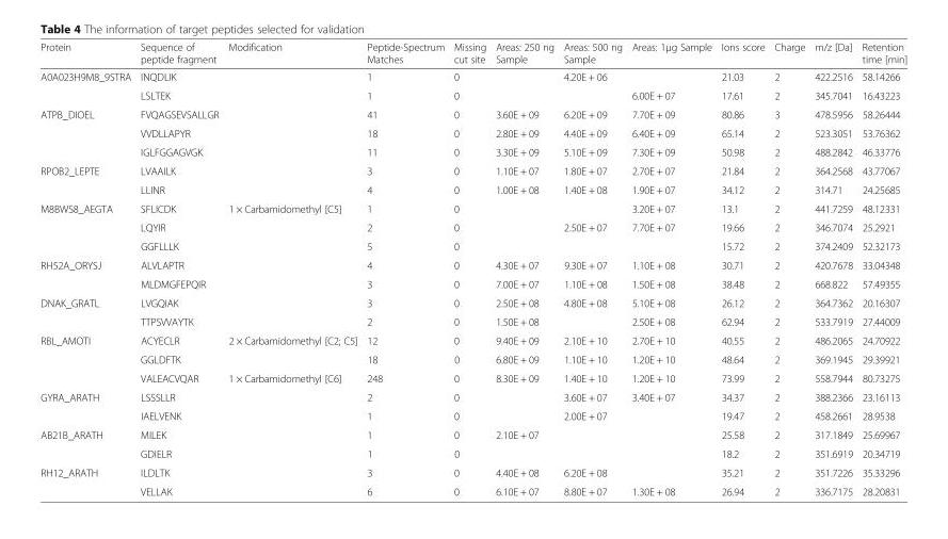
<table><thead><tr><td>Protein</td><td>Sequence of peptide fragment</td><td>Modification</td><td>Peptide-Spectrum Matches</td><td>Missing cut site</td><td>Areas: 250 ng Sample</td><td>Areas: 500 ng Sample</td><td>Areas: 1μg Sample</td><td>Ions score</td><td>Charge</td><td>m/z [Da]</td><td>Retention time [min]</td></tr></thead><tbody><tr><td rowspan="2">A0A023H9M8_9STRA</td><td>INQDLIK</td><td></td><td>1</td><td>0</td><td></td><td>4.20E + 06</td><td></td><td>21.03</td><td>2</td><td>422.2516</td><td>58.14266</td></tr><tr><td>LSLTEK</td><td></td><td>1</td><td>0</td><td></td><td></td><td>6.00E + 07</td><td>17.61</td><td>2</td><td>345.7041</td><td>16.43223</td></tr><tr><td rowspan="3">ATPB_DIOEL</td><td>FVQAGSEVSALLGR</td><td></td><td>41</td><td>0</td><td>3.60E + 09</td><td>6.20E + 09</td><td>7.70E + 09</td><td>80.86</td><td>3</td><td>478.5956</td><td>58.26444</td></tr><tr><td>VVDLLAPYR</td><td></td><td>18</td><td>0</td><td>2.80E + 09</td><td>4.40E + 09</td><td>6.40E + 09</td><td>65.14</td><td>2</td><td>523.3051</td><td>53.76362</td></tr><tr><td>IGLFGGAGVGK</td><td></td><td>11</td><td>0</td><td>3.30E + 09</td><td>5.10E + 09</td><td>7.30E + 09</td><td>50.98</td><td>2</td><td>488.2842</td><td>46.33776</td></tr><tr><td rowspan="2">RPOB2_LEPTE</td><td>LVAAILK</td><td></td><td>3</td><td>0</td><td>1.10E + 07</td><td>1.80E + 07</td><td>2.70E + 07</td><td>21.84</td><td>2</td><td>364.2568</td><td>43.77067</td></tr><tr><td>LLINR</td><td></td><td>4</td><td>0</td><td>1.00E + 08</td><td>1.40E + 08</td><td>1.90E + 07</td><td>34.12</td><td>2</td><td>314.71</td><td>24.25685</td></tr><tr><td rowspan="3">M8BWS8_AEGTA</td><td>SFLICDK</td><td>1 × Carbamidomethyl [C5]</td><td>1</td><td>0</td><td></td><td></td><td>3.20E + 07</td><td>13.1</td><td>2</td><td>441.7259</td><td>48.12331</td></tr><tr><td>LQYIR</td><td></td><td>2</td><td>0</td><td></td><td>2.50E + 07</td><td>7.70E + 07</td><td>19.66</td><td>2</td><td>346.7074</td><td>25.2921</td></tr><tr><td>GGFLLLK</td><td></td><td>5</td><td>0</td><td></td><td></td><td></td><td>15.72</td><td>2</td><td>374.2409</td><td>52.32173</td></tr><tr><td rowspan="2">RH52A_ORYSJ</td><td>ALVLAPTR</td><td></td><td>4</td><td>0</td><td>4.30E + 07</td><td>9.30E + 07</td><td>1.10E + 08</td><td>30.71</td><td>2</td><td>420.7678</td><td>33.04348</td></tr><tr><td>MLDMGFEPQIR</td><td></td><td>3</td><td>0</td><td>7.00E + 07</td><td>1.10E + 08</td><td>1.50E + 08</td><td>38.48</td><td>2</td><td>668.822</td><td>57.49355</td></tr><tr><td rowspan="2">DNAK_GRATL</td><td>LVGQIAK</td><td></td><td>3</td><td>0</td><td>2.50E + 08</td><td>4.80E + 08</td><td>5.10E + 08</td><td>26.12</td><td>2</td><td>364.7362</td><td>20.16307</td></tr><tr><td>TTPSVVAYTK</td><td></td><td>2</td><td>0</td><td>1.50E + 08</td><td></td><td>2.50E + 08</td><td>62.94</td><td>2</td><td>533.7919</td><td>27.44009</td></tr><tr><td rowspan="3">RBL_AMOTI</td><td>ACYECLR</td><td>2 × Carbamidomethyl [C2; C5]</td><td>12</td><td>0</td><td>9.40E + 09</td><td>2.10E + 10</td><td>2.70E + 10</td><td>40.55</td><td>2</td><td>486.2065</td><td>24.70922</td></tr><tr><td>GGLDFTK</td><td></td><td>18</td><td>0</td><td>6.80E + 09</td><td>1.10E + 10</td><td>1.20E + 10</td><td>48.64</td><td>2</td><td>369.1945</td><td>29.39921</td></tr><tr><td>VALEACVQAR</td><td>1 × Carbamidomethyl [C6]</td><td>248</td><td>0</td><td>8.30E + 09</td><td>1.40E + 10</td><td>1.20E + 10</td><td>73.99</td><td>2</td><td>558.7944</td><td>80.73275</td></tr><tr><td rowspan="2">GYRA_ARATH</td><td>LSSSLLR</td><td></td><td>2</td><td>0</td><td></td><td>3.60E + 07</td><td>3.40E + 07</td><td>34.37</td><td>2</td><td>388.2366</td><td>23.16113</td></tr><tr><td>IAELVENK</td><td></td><td>1</td><td>0</td><td></td><td>2.00E + 07</td><td></td><td>19.47</td><td>2</td><td>458.2661</td><td>28.9538</td></tr><tr><td rowspan="2">AB21B_ARATH</td><td>MILEK</td><td></td><td>1</td><td>0</td><td>2.10E + 07</td><td></td><td></td><td>25.58</td><td>2</td><td>317.1849</td><td>25.69967</td></tr><tr><td>GDIELR</td><td></td><td>1</td><td>0</td><td></td><td></td><td></td><td>18.2</td><td>2</td><td>351.6919</td><td>20.34719</td></tr><tr><td rowspan="2">RH12_ARATH</td><td>ILDLTK</td><td></td><td>3</td><td>0</td><td>4.40E + 08</td><td>6.20E + 08</td><td></td><td>35.21</td><td>2</td><td>351.7226</td><td>35.33296</td></tr><tr><td>VELLAK</td><td></td><td>6</td><td>0</td><td>6.10E + 07</td><td>8.80E + 07</td><td>1.30E + 08</td><td>26.94</td><td>2</td><td>336.7175</td><td>28.20831</td></tr></tbody></table>